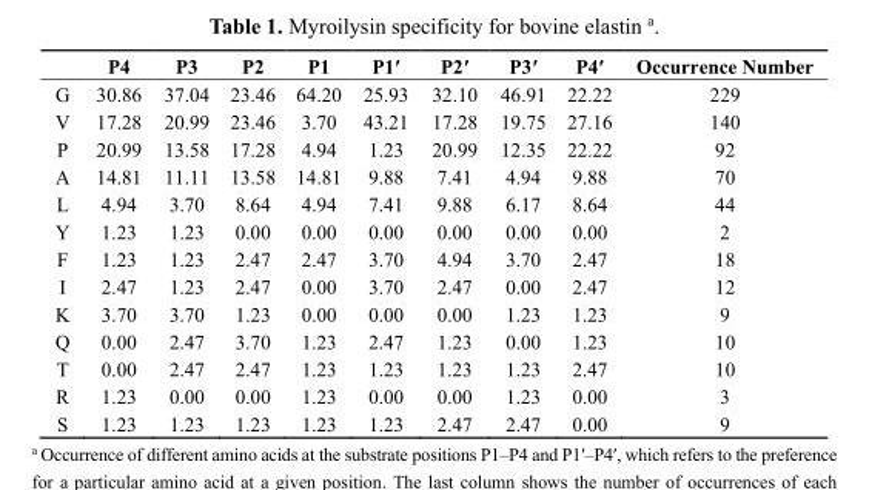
<table><thead><tr><td></td><td>P4</td><td>P3</td><td>P2</td><td>P1</td><td>P1′</td><td>P2′</td><td>P3′</td><td>P4′</td><td>Occurrence Number</td></tr></thead><tbody><tr><td>G</td><td>30.86</td><td>37.04</td><td>23.46</td><td>64.20</td><td>25.93</td><td>32.10</td><td>46.91</td><td>22.22</td><td>229</td></tr><tr><td>V</td><td>17.28</td><td>20.99</td><td>23.46</td><td>3.70</td><td>43.21</td><td>17.28</td><td>19.75</td><td>27.16</td><td>140</td></tr><tr><td>P</td><td>20.99</td><td>13.58</td><td>17.28</td><td>4.94</td><td>1.23</td><td>20.99</td><td>12.35</td><td>22.22</td><td>92</td></tr><tr><td>A</td><td>14.81</td><td>11.11</td><td>13.58</td><td>14.81</td><td>9.88</td><td>7.41</td><td>4.94</td><td>9.88</td><td>70</td></tr><tr><td>L</td><td>4.94</td><td>3.70</td><td>8.64</td><td>4.94</td><td>7.41</td><td>9.88</td><td>6.17</td><td>8.64</td><td>44</td></tr><tr><td>Y</td><td>1.23</td><td>1.23</td><td>0.00</td><td>0.00</td><td>0.00</td><td>0.00</td><td>0.00</td><td>0.00</td><td>2</td></tr><tr><td>F</td><td>1.23</td><td>1.23</td><td>2.47</td><td>2.47</td><td>3.70</td><td>4.94</td><td>3.70</td><td>2.47</td><td>18</td></tr><tr><td>I</td><td>2.47</td><td>1.23</td><td>2.47</td><td>0.00</td><td>3.70</td><td>2.47</td><td>0.00</td><td>2.47</td><td>12</td></tr><tr><td>K</td><td>3.70</td><td>3.70</td><td>1.23</td><td>0.00</td><td>0.00</td><td>0.00</td><td>1.23</td><td>1.23</td><td>9</td></tr><tr><td>Q</td><td>0.00</td><td>2.47</td><td>3.70</td><td>1.23</td><td>2.47</td><td>1.23</td><td>0.00</td><td>1.23</td><td>10</td></tr><tr><td>T</td><td>0.00</td><td>2.47</td><td>2.47</td><td>1.23</td><td>1.23</td><td>1.23</td><td>1.23</td><td>2.47</td><td>10</td></tr><tr><td>R</td><td>1.23</td><td>0.00</td><td>0.00</td><td>1.23</td><td>0.00</td><td>0.00</td><td>1.23</td><td>0.00</td><td>3</td></tr><tr><td>S</td><td>1.23</td><td>1.23</td><td>1.23</td><td>1.23</td><td>1.23</td><td>2.47</td><td>2.47</td><td>0.00</td><td>9</td></tr></tbody></table>